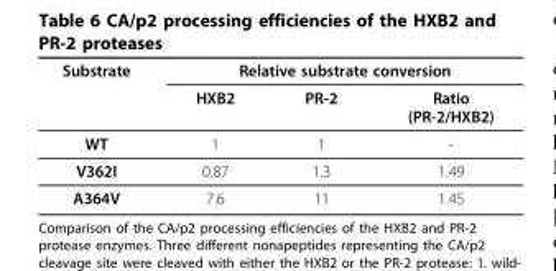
<table><thead><tr><td rowspan="2">Substrate</td><td colspan="3">Relative substrate conversion</td></tr><tr><td>HXB2</td><td>PR-2</td><td>Ratio (PR-2/HXB2)</td></tr></thead><tbody><tr><td>WT</td><td>1</td><td>1</td><td>-</td></tr><tr><td>V362I</td><td>0.87</td><td>1.3</td><td>1.49</td></tr><tr><td>A364V</td><td>7.6</td><td>11</td><td>1.45</td></tr></tbody></table>